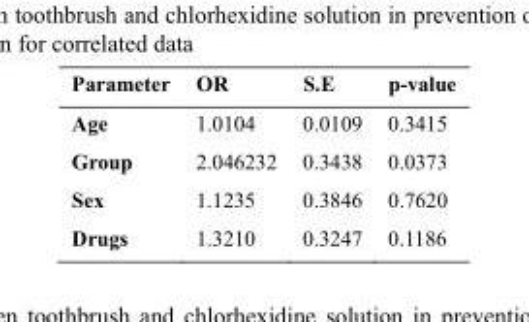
<table><thead><tr><td>Parameter</td><td>OR</td><td>S.E</td><td>p-value</td></tr></thead><tbody><tr><td>Age</td><td>1.0104</td><td>0.0109</td><td>0.3415</td></tr><tr><td>Group</td><td>2.046232</td><td>0.3438</td><td>0.0373</td></tr><tr><td>Sex</td><td>1.1235</td><td>0.3846</td><td>0.7620</td></tr><tr><td>Drugs</td><td>1.3210</td><td>0.3247</td><td>0.1186</td></tr></tbody></table>